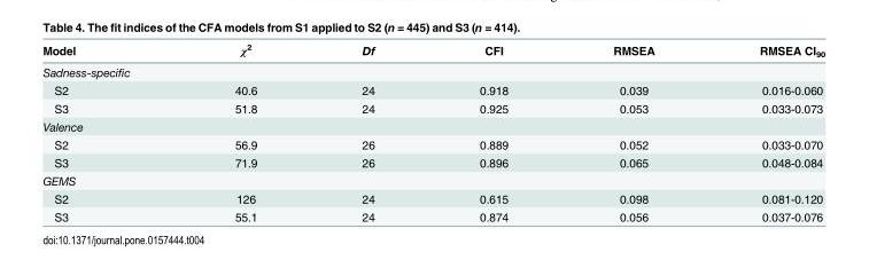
<table><thead><tr><td>Model</td><td>χ<sup>2</sup></td><td>Df</td><td>CFI</td><td>RMSEA</td><td>RMSEA CI<sub>90</sub></td></tr></thead><tbody><tr><td colspan="6">Sadness-specific</td></tr><tr><td>S2</td><td>40.6</td><td>24</td><td>0.918</td><td>0.039</td><td>0.016-0.060</td></tr><tr><td>S3</td><td>51.8</td><td>24</td><td>0.925</td><td>0.053</td><td>0.033-0.073</td></tr><tr><td colspan="6">Valence</td></tr><tr><td>S2</td><td>56.9</td><td>26</td><td>0.889</td><td>0.052</td><td>0.033-0.070</td></tr><tr><td>S3</td><td>71.9</td><td>26</td><td>0.896</td><td>0.065</td><td>0.048-0.084</td></tr><tr><td colspan="6">GEMS</td></tr><tr><td>S2</td><td>126</td><td>24</td><td>0.615</td><td>0.098</td><td>0.081-0.120</td></tr><tr><td>S3</td><td>55.1</td><td>24</td><td>0.874</td><td>0.056</td><td>0.037-0.076</td></tr></tbody></table>